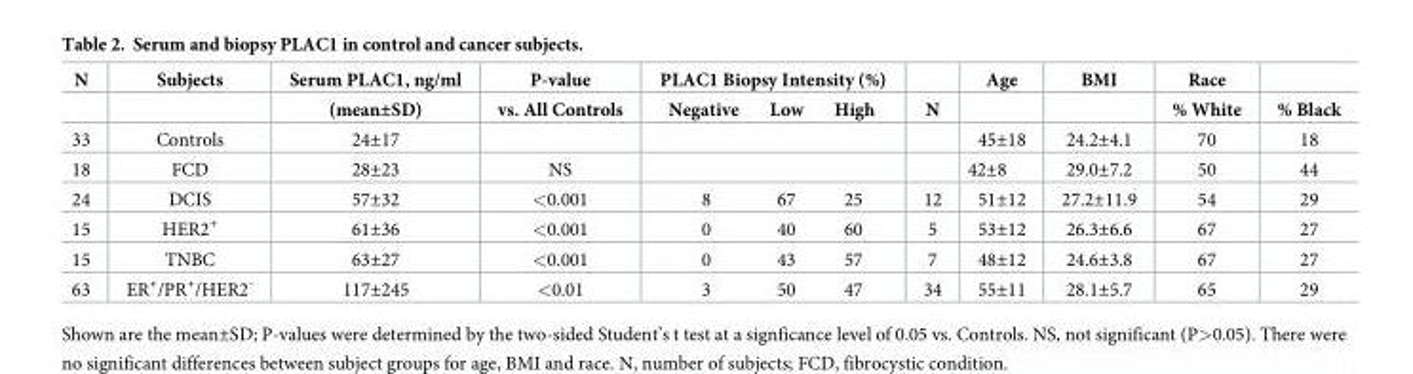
<table><thead><tr><td rowspan="2">N</td><td rowspan="2">Subjects</td><td rowspan="2">Serum PLAC1, ng/ml (mean±SD)</td><td rowspan="2">P-value vs. All Controls</td><td rowspan="2">PLAC1 Biopsy Intensity (%) Negative Low High</td><td rowspan="2">N</td><td rowspan="2">Age</td><td rowspan="2">BMI</td><td rowspan="2">Race % White</td><td rowspan="2">% Black</td></tr><tr></tr></thead><tbody><tr><td>33</td><td>Controls</td><td>24±17</td><td></td><td></td><td></td><td>45±18</td><td>24.2±4.1</td><td>70</td><td>18</td></tr><tr><td>18</td><td>FCD</td><td>28±23</td><td>NS</td><td></td><td></td><td>42±8</td><td>29.0±7.2</td><td>50</td><td>44</td></tr><tr><td>24</td><td>DCIS</td><td>57±32</td><td>&lt;0.001</td><td>8 67 25</td><td>12</td><td>51±12</td><td>27.2±11.9</td><td>54</td><td>29</td></tr><tr><td>15</td><td>HER2<sup>+</sup></td><td>61±36</td><td>&lt;0.001</td><td>0 40 60</td><td>5</td><td>53±12</td><td>26.3±6.6</td><td>67</td><td>27</td></tr><tr><td>15</td><td>TNBC</td><td>63±27</td><td>&lt;0.001</td><td>0 43 57</td><td>7</td><td>48±12</td><td>24.6±3.8</td><td>67</td><td>27</td></tr><tr><td>63</td><td>ER<sup>+</sup>/PR<sup>+</sup>/HER2<sup>-</sup></td><td>117±245</td><td>&lt;0.01</td><td>3 50 47</td><td>34</td><td>55±11</td><td>28.1±5.7</td><td>65</td><td>29</td></tr></tbody></table>